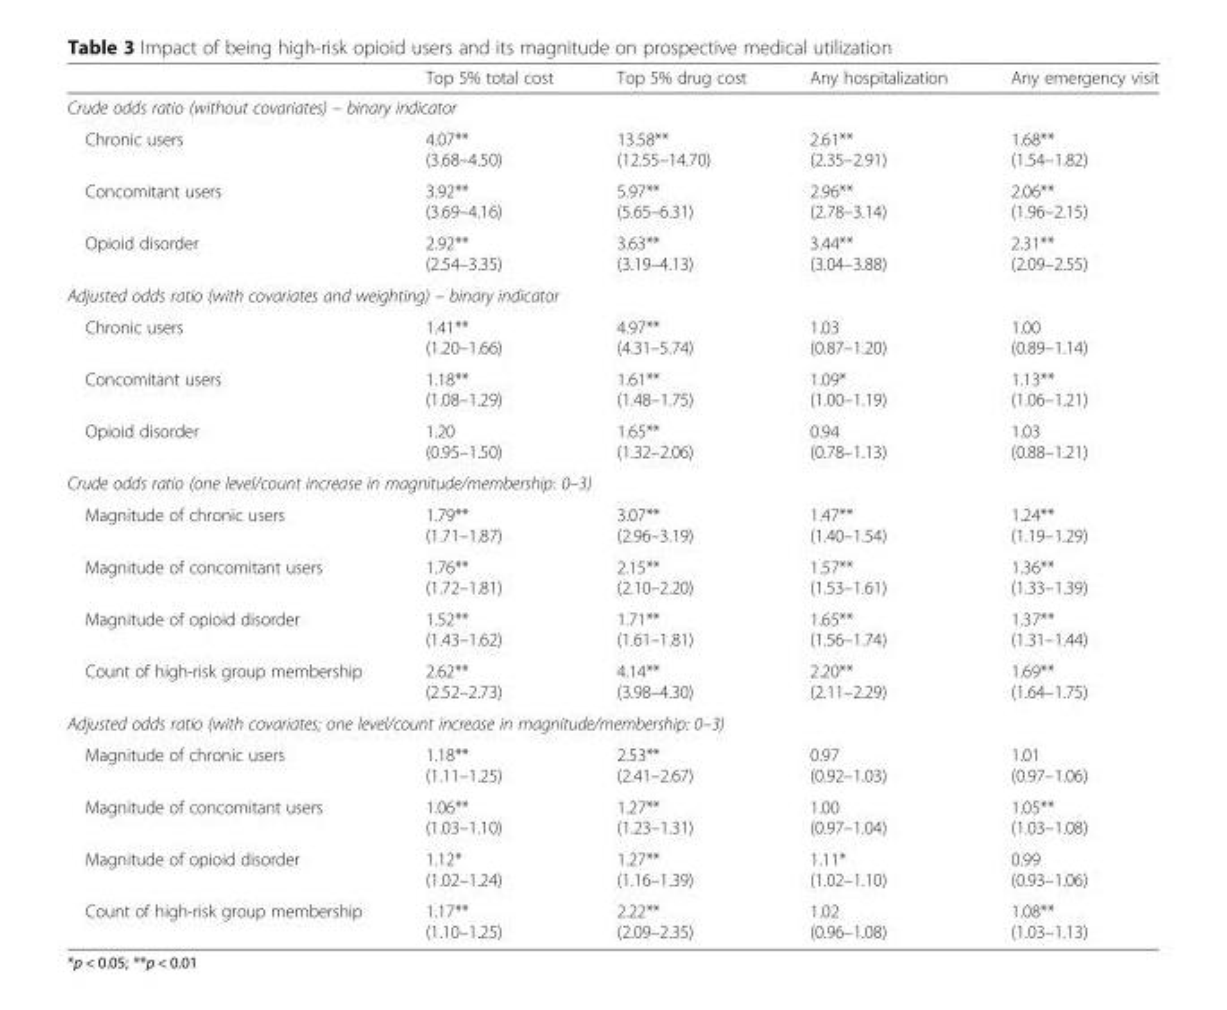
<table><thead><tr><td></td><td>Top 5% total cost</td><td>Top 5% drug cost</td><td>Any hospitalization</td><td>Any emergency visit</td></tr></thead><tbody><tr><td colspan="5">Crude odds ratio (without covariates) – binary indicator</td></tr><tr><td>Chronic users</td><td>4.07** (3.68–4.50)</td><td>13.58** (12.55–14.70)</td><td>2.61** (2.35–2.91)</td><td>1.68** (1.54–1.82)</td></tr><tr><td>Concomitant users</td><td>3.92** (3.69–4.16)</td><td>5.97** (5.65–6.31)</td><td>2.96** (2.78–3.14)</td><td>2.06** (1.96–2.15)</td></tr><tr><td>Opioid disorder</td><td>2.92** (2.54–3.35)</td><td>3.63** (3.19–4.13)</td><td>3.44** (3.04–3.88)</td><td>2.31** (2.09–2.55)</td></tr><tr><td colspan="5">Adjusted odds ratio (with covariates and weighting) – binary indicator</td></tr><tr><td>Chronic users</td><td>1.41** (1.20–1.66)</td><td>4.97** (4.31–5.74)</td><td>1.03 (0.87–1.20)</td><td>1.00 (0.89–1.14)</td></tr><tr><td>Concomitant users</td><td>1.18** (1.08–1.29)</td><td>1.61** (1.48–1.75)</td><td>1.09* (1.00–1.19)</td><td>1.13** (1.06–1.21)</td></tr><tr><td>Opioid disorder</td><td>1.20 (0.95–1.50)</td><td>1.65** (1.32–2.06)</td><td>0.94 (0.78–1.13)</td><td>1.03 (0.88–1.21)</td></tr><tr><td colspan="5">Crude odds ratio (one level/count increase in magnitude/membership: 0–3)</td></tr><tr><td>Magnitude of chronic users</td><td>1.79** (1.71–1.87)</td><td>3.07** (2.96–3.19)</td><td>1.47** (1.40–1.54)</td><td>1.24** (1.19–1.29)</td></tr><tr><td>Magnitude of concomitant users</td><td>1.76** (1.72–1.81)</td><td>2.15** (2.10–2.20)</td><td>1.57** (1.53–1.61)</td><td>1.36** (1.33–1.39)</td></tr><tr><td>Magnitude of opioid disorder</td><td>1.52** (1.43–1.62)</td><td>1.71** (1.61–1.81)</td><td>1.65** (1.56–1.74)</td><td>1.37** (1.31–1.44)</td></tr><tr><td>Count of high-risk group membership</td><td>2.62** (2.52–2.73)</td><td>4.14** (3.98–4.30)</td><td>2.20** (2.11–2.29)</td><td>1.69** (1.64–1.75)</td></tr><tr><td colspan="5">Adjusted odds ratio (with covariates; one level/count increase in magnitude/membership: 0–3)</td></tr><tr><td>Magnitude of chronic users</td><td>1.18** (1.11–1.25)</td><td>2.53** (2.41–2.67)</td><td>0.97 (0.92–1.03)</td><td>1.01 (0.97–1.06)</td></tr><tr><td>Magnitude of concomitant users</td><td>1.06** (1.03–1.10)</td><td>1.27** (1.23–1.31)</td><td>1.00 (0.97–1.04)</td><td>1.05** (1.03–1.08)</td></tr><tr><td>Magnitude of opioid disorder</td><td>1.12* (1.02–1.24)</td><td>1.27** (1.16–1.39)</td><td>1.11* (1.02–1.10)</td><td>0.99 (0.93–1.06)</td></tr><tr><td>Count of high-risk group membership</td><td>1.17** (1.10–1.25)</td><td>2.22** (2.09–2.35)</td><td>1.02 (0.96–1.08)</td><td>1.08** (1.03–1.13)</td></tr></tbody></table>